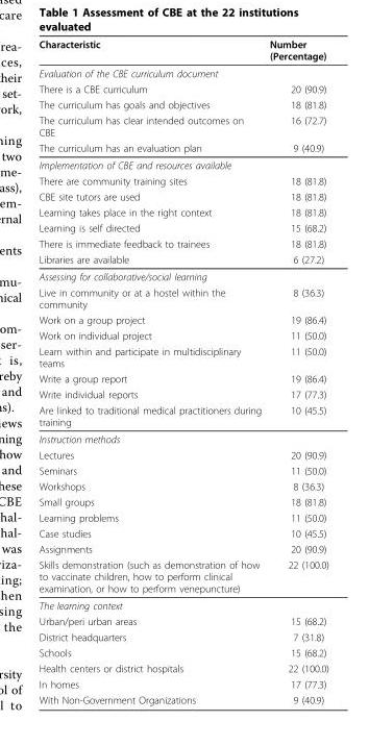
<table><thead><tr><td>Characteristic</td><td>Number (Percentage)</td></tr></thead><tbody><tr><td colspan="2">Evaluation of the CBE curriculum document</td></tr><tr><td>There is a CBE curriculum</td><td>20 (90.9)</td></tr><tr><td>The curriculum has goals and objectives</td><td>18 (81.8)</td></tr><tr><td>The curriculum has clear intended outcomes on CBE</td><td>16 (72.7)</td></tr><tr><td>The curriculum has an evaluation plan</td><td>9 (40.9)</td></tr><tr><td colspan="2">Implementation of CBE and resources available</td></tr><tr><td>There are community training sites</td><td>18 (81.8)</td></tr><tr><td>CBE site tutors are used</td><td>18 (81.8)</td></tr><tr><td>Learning takes place in the right context</td><td>18 (81.8)</td></tr><tr><td>Learning is self directed</td><td>15 (68.2)</td></tr><tr><td>There is immediate feedback to trainees</td><td>18 (81.8)</td></tr><tr><td>Libraries are available</td><td>6 (27.2)</td></tr><tr><td colspan="2">Assessing for collaborative/social learning</td></tr><tr><td>Live in community or at a hostel within the community</td><td>8 (36.3)</td></tr><tr><td>Work on a group project</td><td>19 (86.4)</td></tr><tr><td>Work on individual project</td><td>11 (50.0)</td></tr><tr><td>Learn within and participate in multidisciplinary teams</td><td>11 (50.0)</td></tr><tr><td>Write a group report</td><td>19 (86.4)</td></tr><tr><td>Write individual reports</td><td>17 (77.3)</td></tr><tr><td>Are linked to traditional medical practitioners during training</td><td>10 (45.5)</td></tr><tr><td colspan="2">Instruction methods</td></tr><tr><td>Lectures</td><td>20 (90.9)</td></tr><tr><td>Seminars</td><td>11 (50.0)</td></tr><tr><td>Workshops</td><td>8 (36.3)</td></tr><tr><td>Small groups</td><td>18 (81.8)</td></tr><tr><td>Learning problems</td><td>11 (50.0)</td></tr><tr><td>Case studies</td><td>10 (45.5)</td></tr><tr><td>Assignments</td><td>20 (90.9)</td></tr><tr><td>Skills demonstration (such as demonstration of how to vaccinate children, how to perform clinical examination, or how to perform venepuncture)</td><td>22 (100.0)</td></tr><tr><td colspan="2">The learning context</td></tr><tr><td>Urban/peri urban areas</td><td>15 (68.2)</td></tr><tr><td>District headquarters</td><td>7 (31.8)</td></tr><tr><td>Schools</td><td>15 (68.2)</td></tr><tr><td>Health centers or district hospitals</td><td>22 (100.0)</td></tr><tr><td>In homes</td><td>17 (77.3)</td></tr><tr><td>With Non-Government Organizations</td><td>9 (40.9)</td></tr></tbody></table>